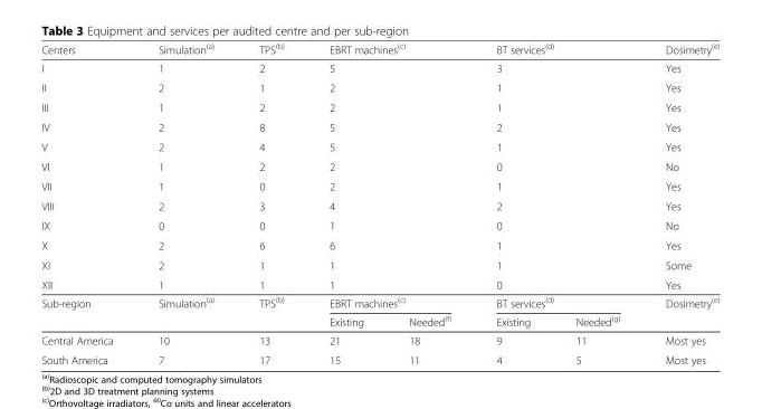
<table><thead><tr><td>Centers</td><td>Simulation<sup>(a)</sup></td><td>TPS<sup>(b)</sup></td><td colspan="2">EBRT machines<sup>(c)</sup></td><td colspan="2">BT services<sup>(d)</sup></td><td>Dosimetry<sup>(e)</sup></td></tr></thead><tbody><tr><td>I</td><td>1</td><td>2</td><td colspan="2">5</td><td colspan="2">3</td><td>Yes</td></tr><tr><td>II</td><td>2</td><td>1</td><td colspan="2">2</td><td colspan="2">1</td><td>Yes</td></tr><tr><td>III</td><td>1</td><td>2</td><td colspan="2">2</td><td colspan="2">1</td><td>Yes</td></tr><tr><td>IV</td><td>2</td><td>8</td><td colspan="2">5</td><td colspan="2">2</td><td>Yes</td></tr><tr><td>V</td><td>2</td><td>4</td><td colspan="2">5</td><td colspan="2">1</td><td>Yes</td></tr><tr><td>VI</td><td>1</td><td>2</td><td colspan="2">2</td><td colspan="2">0</td><td>No</td></tr><tr><td>VII</td><td>1</td><td>0</td><td colspan="2">2</td><td colspan="2">1</td><td>Yes</td></tr><tr><td>VIII</td><td>2</td><td>3</td><td colspan="2">4</td><td colspan="2">2</td><td>Yes</td></tr><tr><td>IX</td><td>0</td><td>0</td><td colspan="2">1</td><td colspan="2">0</td><td>No</td></tr><tr><td>X</td><td>2</td><td>6</td><td colspan="2">6</td><td colspan="2">1</td><td>Yes</td></tr><tr><td>XI</td><td>2</td><td>1</td><td colspan="2">1</td><td colspan="2">1</td><td>Some</td></tr><tr><td>XII</td><td>1</td><td>1</td><td colspan="2">1</td><td colspan="2">0</td><td>Yes</td></tr><tr><td rowspan="2">Sub-region</td><td rowspan="2">Simulation<sup>(a)</sup></td><td rowspan="2">TPS<sup>(b)</sup></td><td colspan="2">EBRT machines<sup>(c)</sup></td><td colspan="2">BT services<sup>(d)</sup></td><td rowspan="2">Dosimetry<sup>(e)</sup></td></tr><tr><td>Existing</td><td>Needed<sup>(f)</sup></td><td>Existing</td><td>Needed<sup>(g)</sup></td></tr><tr><td>Central America</td><td>10</td><td>13</td><td>21</td><td>18</td><td>9</td><td>11</td><td>Most yes</td></tr><tr><td>South America</td><td>7</td><td>17</td><td>15</td><td>11</td><td>4</td><td>5</td><td>Most yes</td></tr></tbody></table>